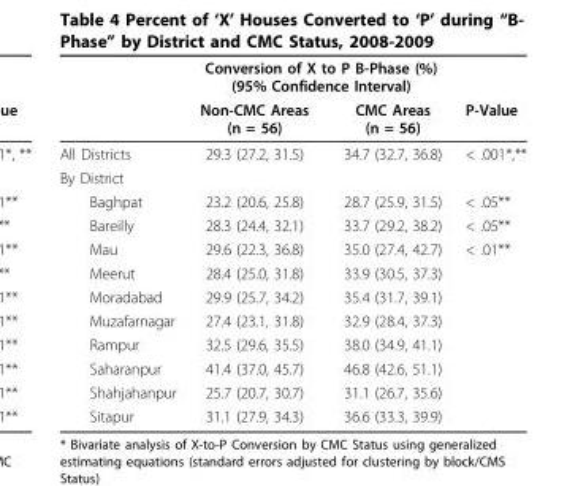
<table><thead><tr><td rowspan="2"></td><td colspan="2">Conversion of X to P B-Phase (%) (95% Confidence Interval)</td><td rowspan="2">P-Value</td></tr><tr><td>Non-CMC Areas (n = 56)</td><td>CMC Areas (n = 56)</td></tr></thead><tbody><tr><td>All Districts</td><td>29.3 (27.2, 31.5)</td><td>34.7 (32.7, 36.8)</td><td>&lt; .001*,**</td></tr><tr><td colspan="4">By District</td></tr><tr><td>Baghpat</td><td>23.2 (20.6, 25.8)</td><td>28.7 (25.9, 31.5)</td><td>&lt; .05**</td></tr><tr><td>Bareilly</td><td>28.3 (24.4, 32.1)</td><td>33.7 (29.2, 38.2)</td><td>&lt; .05**</td></tr><tr><td>Mau</td><td>29.6 (22.3, 36.8)</td><td>35.0 (27.4, 42.7)</td><td>&lt; .01**</td></tr><tr><td>Meerut</td><td>28.4 (25.0, 31.8)</td><td>33.9 (30.5, 37.3)</td><td></td></tr><tr><td>Moradabad</td><td>29.9 (25.7, 34.2)</td><td>35.4 (31.7, 39.1)</td><td></td></tr><tr><td>Muzafarnagar</td><td>27.4 (23.1, 31.8)</td><td>32.9 (28.4, 37.3)</td><td></td></tr><tr><td>Rampur</td><td>32.5 (29.6, 35.5)</td><td>38.0 (34.9, 41.1)</td><td></td></tr><tr><td>Saharanpur</td><td>41.4 (37.0, 45.7)</td><td>46.8 (42.6, 51.1)</td><td></td></tr><tr><td>Shahjahanpur</td><td>25.7 (20.7, 30.7)</td><td>31.1 (26.7, 35.6)</td><td></td></tr><tr><td>Sitapur</td><td>31.1 (27.9, 34.3)</td><td>36.6 (33.3, 39.9)</td><td></td></tr></tbody></table>